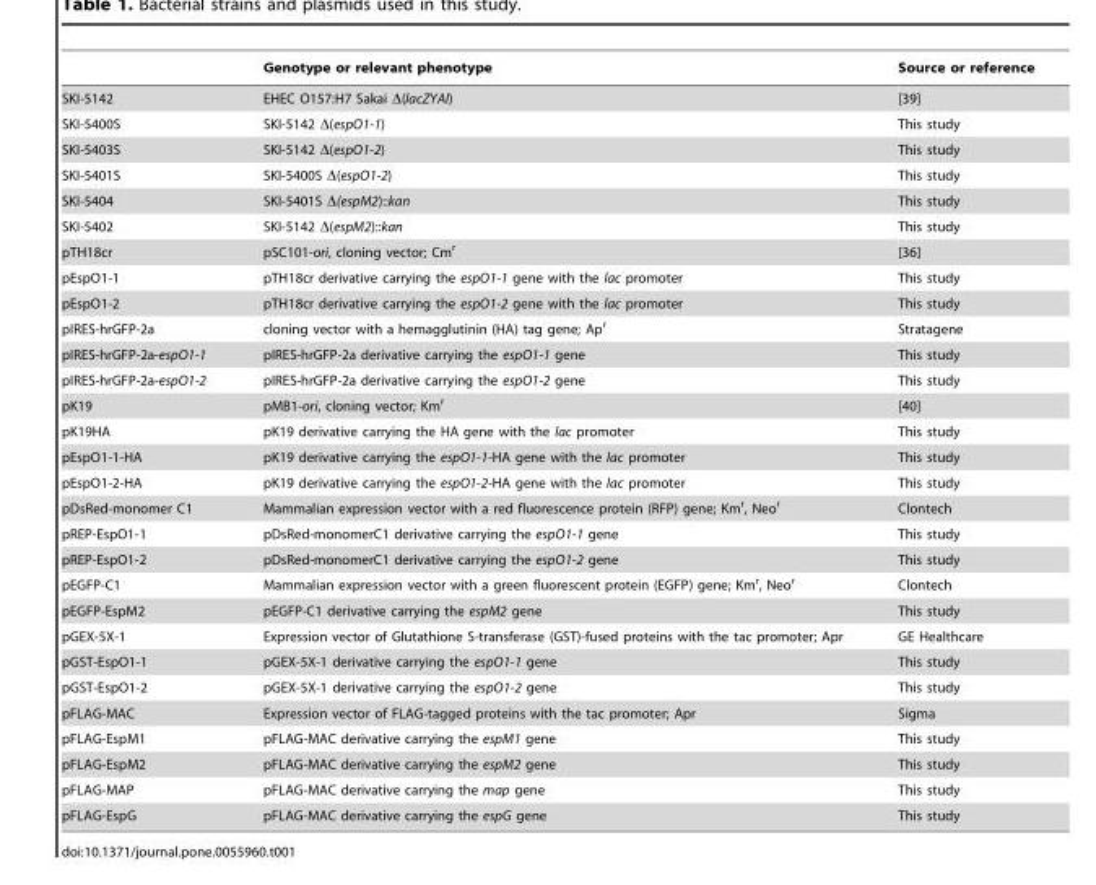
<table><thead><tr><td></td><td>Genotype or relevant phenotype</td><td>Source or reference</td></tr></thead><tbody><tr><td>SKI-5142</td><td>EHEC O157:H7 Sakai Δ(lacZYAI)</td><td>[39]</td></tr><tr><td>SKI-5400S</td><td>SKI-5142 Δ(espO1-1)</td><td>This study</td></tr><tr><td>SKI-5403S</td><td>SKI-5142 Δ(espO1-2)</td><td>This study</td></tr><tr><td>SKI-5401S</td><td>SKI-5400S Δ(espO1-2)</td><td>This study</td></tr><tr><td>SKI-5404</td><td>SKI-5401S Δ(espM2)::kan</td><td>This study</td></tr><tr><td>SKI-5402</td><td>SKI-5142 Δ(espM2)::kan</td><td>This study</td></tr><tr><td>pTH18cr</td><td>pSC101-ori, cloning vector; Cm<sup>r</sup></td><td>[36]</td></tr><tr><td>pEspO1-1</td><td>pTH18cr derivative carrying the espO1-1 gene with the lac promoter</td><td>This study</td></tr><tr><td>pEspO1-2</td><td>pTH18cr derivative carrying the espO1-2 gene with the lac promoter</td><td>This study</td></tr><tr><td>pIRES-hrGFP-2a</td><td>cloning vector with a hemagglutinin (HA) tag gene; Ap<sup>r</sup></td><td>Stratagene</td></tr><tr><td>pIRES-hrGFP-2a-espO1-1</td><td>pIRES-hrGFP-2a derivative carrying the espO1-1 gene</td><td>This study</td></tr><tr><td>pIRES-hrGFP-2a-espO1-2</td><td>pIRES-hrGFP-2a derivative carrying the espO1-2 gene</td><td>This study</td></tr><tr><td>pK19</td><td>pMB1-ori, cloning vector; Km<sup>r</sup></td><td>[40]</td></tr><tr><td>pK19HA</td><td>pK19 derivative carrying the HA gene with the lac promoter</td><td>This study</td></tr><tr><td>pEspO1-1-HA</td><td>pK19 derivative carrying the espO1-1-HA gene with the lac promoter</td><td>This study</td></tr><tr><td>pEspO1-2-HA</td><td>pK19 derivative carrying the espO1-2-HA gene with the lac promoter</td><td>This study</td></tr><tr><td>pDsRed-monomer C1</td><td>Mammalian expression vector with a red fluorescence protein (RFP) gene; Km<sup>r</sup>, Neo<sup>r</sup></td><td>Clontech</td></tr><tr><td>pREP-EspO1-1</td><td>pDsRed-monomerC1 derivative carrying the espO1-1 gene</td><td>This study</td></tr><tr><td>pREP-EspO1-2</td><td>pDsRed-monomerC1 derivative carrying the espO1-2 gene</td><td>This study</td></tr><tr><td>pEGFP-C1</td><td>Mammalian expression vector with a green fluorescent protein (EGFP) gene; Km<sup>r</sup>, Neo<sup>r</sup></td><td>Clontech</td></tr><tr><td>pEGFP-EspM2</td><td>pEGFP-C1 derivative carrying the espM2 gene</td><td>This study</td></tr><tr><td>pGEX-5X-1</td><td>Expression vector of Glutathione S-transferase (GST)-fused proteins with the tac promoter; Apr</td><td>GE Healthcare</td></tr><tr><td>pGST-EspO1-1</td><td>pGEX-5X-1 derivative carrying the espO1-1 gene</td><td>This study</td></tr><tr><td>pGST-EspO1-2</td><td>pGEX-5X-1 derivative carrying the espO1-2 gene</td><td>This study</td></tr><tr><td>pFLAG-MAC</td><td>Expression vector of FLAG-tagged proteins with the tac promoter; Apr</td><td>Sigma</td></tr><tr><td>pFLAG-EspM1</td><td>pFLAG-MAC derivative carrying the espM1 gene</td><td>This study</td></tr><tr><td>pFLAG-EspM2</td><td>pFLAG-MAC derivative carrying the espM2 gene</td><td>This study</td></tr><tr><td>pFLAG-MAP</td><td>pFLAG-MAC derivative carrying the map gene</td><td>This study</td></tr><tr><td>pFLAG-EspG</td><td>pFLAG-MAC derivative carrying the espG gene</td><td>This study</td></tr></tbody></table>